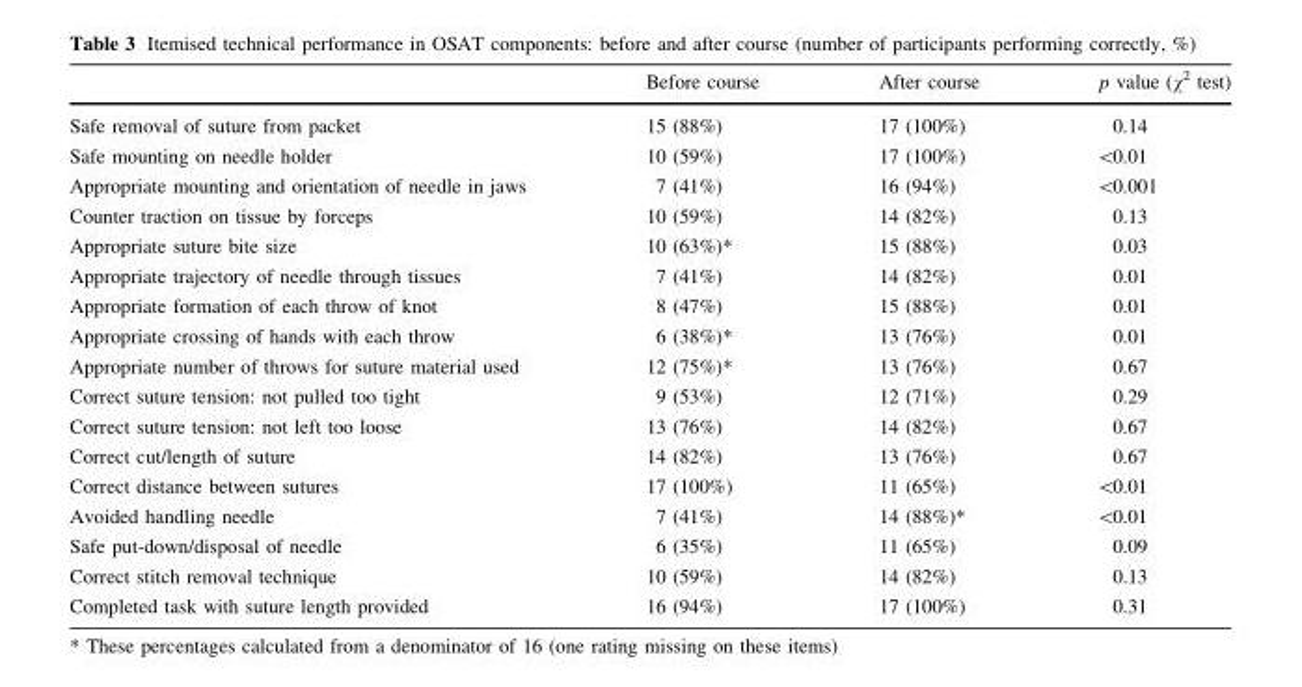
<table><thead><tr><td></td><td>Before course</td><td>After course</td><td>p value (χ<sup>2</sup> test)</td></tr></thead><tbody><tr><td>Safe removal of suture from packet</td><td>15 (88%)</td><td>17 (100%)</td><td>0.14</td></tr><tr><td>Safe mounting on needle holder</td><td>10 (59%)</td><td>17 (100%)</td><td>&lt;0.01</td></tr><tr><td>Appropriate mounting and orientation of needle in jaws</td><td>7 (41%)</td><td>16 (94%)</td><td>&lt;0.001</td></tr><tr><td>Counter traction on tissue by forceps</td><td>10 (59%)</td><td>14 (82%)</td><td>0.13</td></tr><tr><td>Appropriate suture bite size</td><td>10 (63%)*</td><td>15 (88%)</td><td>0.03</td></tr><tr><td>Appropriate trajectory of needle through tissues</td><td>7 (41%)</td><td>14 (82%)</td><td>0.01</td></tr><tr><td>Appropriate formation of each throw of knot</td><td>8 (47%)</td><td>15 (88%)</td><td>0.01</td></tr><tr><td>Appropriate crossing of hands with each throw</td><td>6 (38%)*</td><td>13 (76%)</td><td>0.01</td></tr><tr><td>Appropriate number of throws for suture material used</td><td>12 (75%)*</td><td>13 (76%)</td><td>0.67</td></tr><tr><td>Correct suture tension: not pulled too tight</td><td>9 (53%)</td><td>12 (71%)</td><td>0.29</td></tr><tr><td>Correct suture tension: not left too loose</td><td>13 (76%)</td><td>14 (82%)</td><td>0.67</td></tr><tr><td>Correct cut/length of suture</td><td>14 (82%)</td><td>13 (76%)</td><td>0.67</td></tr><tr><td>Correct distance between sutures</td><td>17 (100%)</td><td>11 (65%)</td><td>&lt;0.01</td></tr><tr><td>Avoided handling needle</td><td>7 (41%)</td><td>14 (88%)*</td><td>&lt;0.01</td></tr><tr><td>Safe put-down/disposal of needle</td><td>6 (35%)</td><td>11 (65%)</td><td>0.09</td></tr><tr><td>Correct stitch removal technique</td><td>10 (59%)</td><td>14 (82%)</td><td>0.13</td></tr><tr><td>Completed task with suture length provided</td><td>16 (94%)</td><td>17 (100%)</td><td>0.31</td></tr></tbody></table>